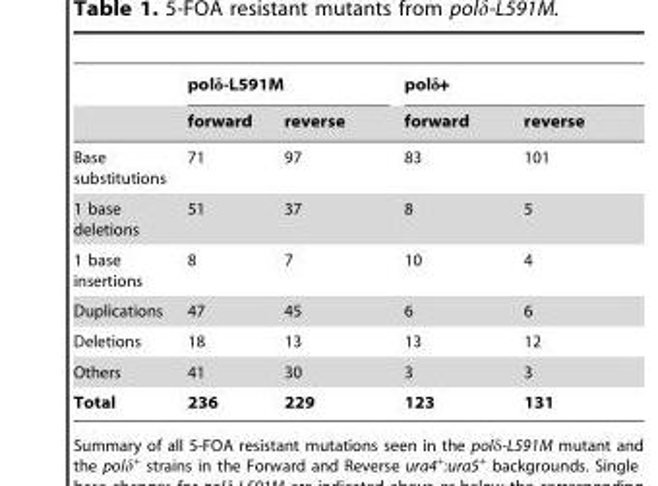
<table><thead><tr><td rowspan="2"></td><td colspan="2">polδ-L591M</td><td colspan="2">polδ+</td></tr><tr><td>forward</td><td>reverse</td><td>forward</td><td>reverse</td></tr></thead><tbody><tr><td>Base substitutions</td><td>71</td><td>97</td><td>83</td><td>101</td></tr><tr><td>1 base deletions</td><td>51</td><td>37</td><td>8</td><td>5</td></tr><tr><td>1 base insertions</td><td>8</td><td>7</td><td>10</td><td>4</td></tr><tr><td>Duplications</td><td>47</td><td>45</td><td>6</td><td>6</td></tr><tr><td>Deletions</td><td>18</td><td>13</td><td>13</td><td>12</td></tr><tr><td>Others</td><td>41</td><td>30</td><td>3</td><td>3</td></tr><tr><td>Total</td><td>236</td><td>229</td><td>123</td><td>131</td></tr></tbody></table>